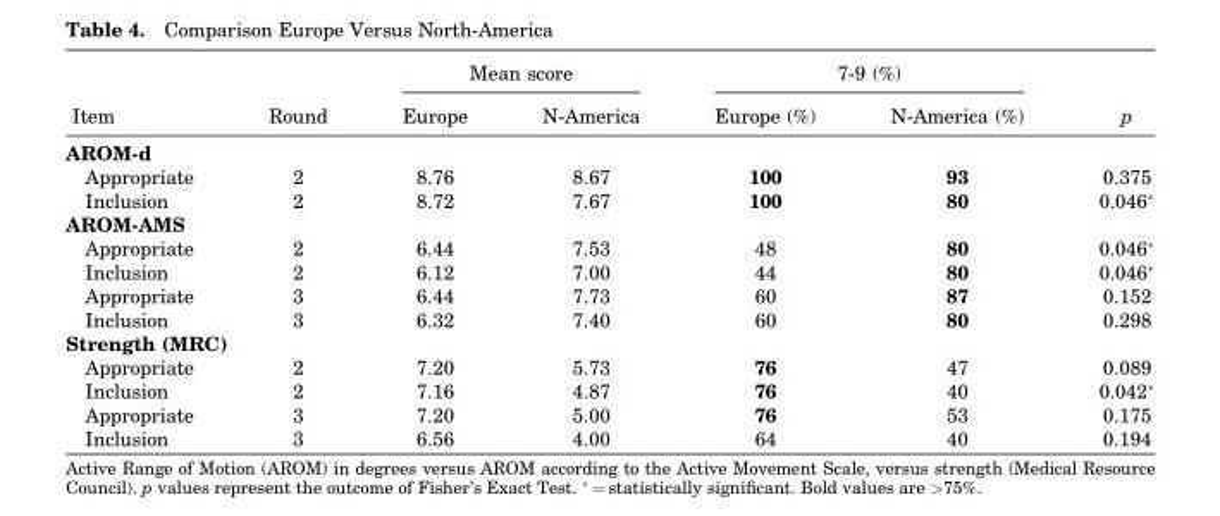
<table><thead><tr><td rowspan="2">Item</td><td rowspan="2">Round</td><td colspan="2">Mean score</td><td colspan="2">7-9 (%)</td><td rowspan="2">p</td></tr><tr><td>Europe</td><td>N-America</td><td>Europe (%)</td><td>N-America (%)</td></tr></thead><tbody><tr><td colspan="7">AROM-d</td></tr><tr><td>Appropriate</td><td>2</td><td>8.76</td><td>8.67</td><td>100</td><td>93</td><td>0.375</td></tr><tr><td>Inclusion</td><td>2</td><td>8.72</td><td>7.67</td><td>100</td><td>80</td><td>0.046*</td></tr><tr><td colspan="7">AROM-AMS</td></tr><tr><td>Appropriate</td><td>2</td><td>6.44</td><td>7.53</td><td>48</td><td>80</td><td>0.046*</td></tr><tr><td>Inclusion</td><td>2</td><td>6.12</td><td>7.00</td><td>44</td><td>80</td><td>0.046*</td></tr><tr><td>Appropriate</td><td>3</td><td>6.44</td><td>7.73</td><td>60</td><td>87</td><td>0.152</td></tr><tr><td>Inclusion</td><td>3</td><td>6.32</td><td>7.40</td><td>60</td><td>80</td><td>0.298</td></tr><tr><td colspan="7">Strength (MRC)</td></tr><tr><td>Appropriate</td><td>2</td><td>7.20</td><td>5.73</td><td>76</td><td>47</td><td>0.089</td></tr><tr><td>Inclusion</td><td>2</td><td>7.16</td><td>4.87</td><td>76</td><td>40</td><td>0.042*</td></tr><tr><td>Appropriate</td><td>3</td><td>7.20</td><td>5.00</td><td>76</td><td>53</td><td>0.175</td></tr><tr><td>Inclusion</td><td>3</td><td>6.56</td><td>4.00</td><td>64</td><td>40</td><td>0.194</td></tr></tbody></table>